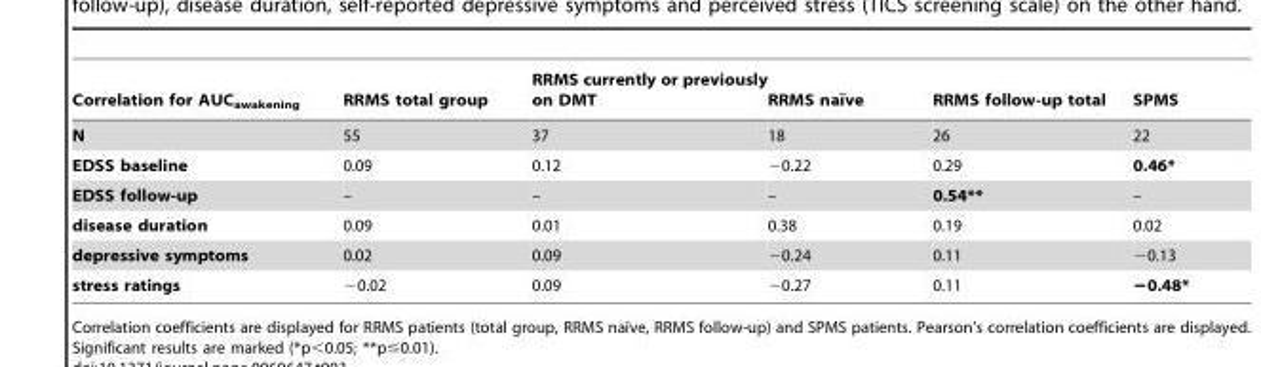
<table><thead><tr><td>Correlation for AUC<sub>awakening</sub></td><td>RRMS total group</td><td>RRMS currently or previously on DMT</td><td>RRMS naı¨ve</td><td>RRMS follow-up total</td><td>SPMS</td></tr></thead><tbody><tr><td>N</td><td>55</td><td>37</td><td>18</td><td>26</td><td>22</td></tr><tr><td>EDSS baseline</td><td>0.09</td><td>0.12</td><td>−0.22</td><td>0.29</td><td>0.46*</td></tr><tr><td>EDSS follow-up</td><td>–</td><td>–</td><td>–</td><td>0.54**</td><td>–</td></tr><tr><td>disease duration</td><td>0.09</td><td>0.01</td><td>0.38</td><td>0.19</td><td>0.02</td></tr><tr><td>depressive symptoms</td><td>0.02</td><td>0.09</td><td>−0.24</td><td>0.11</td><td>−0.13</td></tr><tr><td>stress ratings</td><td>−0.02</td><td>0.09</td><td>−0.27</td><td>0.11</td><td>−0.48*</td></tr></tbody></table>